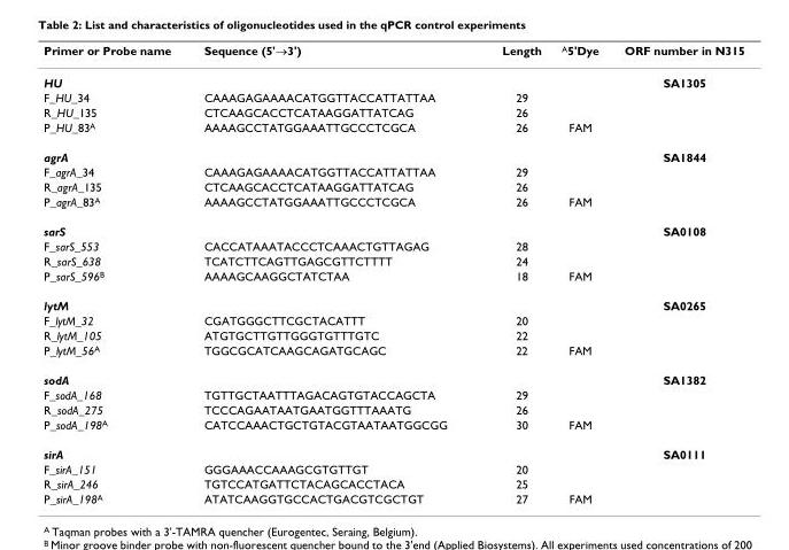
<table><thead><tr><td>Primer or Probe name</td><td>Sequence (5&#x27;→3&#x27;)</td><td>Length</td><td><sup>A</sup>5&#x27;Dye</td><td>ORF number in N315</td></tr></thead><tbody><tr><td>HU</td><td></td><td></td><td></td><td>SA1305</td></tr><tr><td>F_HU_34</td><td>CAAAGAGAAAACATGGTTACCATTATTAA</td><td>29</td><td></td><td></td></tr><tr><td>R_HU_135</td><td>CTCAAGCACCTCATAAGGATTATCAG</td><td>26</td><td></td><td></td></tr><tr><td>P_HU_83<sup>A</sup></td><td>AAAAGCCTATGGAAATTGCCCTCGCA</td><td>26</td><td>FAM</td><td></td></tr><tr><td>agrA</td><td></td><td></td><td></td><td>SA1844</td></tr><tr><td>F_agrA_34</td><td>CAAAGAGAAAACATGGTTACCATTATTAA</td><td>29</td><td></td><td></td></tr><tr><td>R_agrA_135</td><td>CTCAAGCACCTCATAAGGATTATCAG</td><td>26</td><td></td><td></td></tr><tr><td>P_agrA_83<sup>A</sup></td><td>AAAAGCCTATGGAAATTGCCCTCGCA</td><td>26</td><td>FAM</td><td></td></tr><tr><td>sarS</td><td></td><td></td><td></td><td>SA0108</td></tr><tr><td>F_sarS_553</td><td>CACCATAAATACCCTCAAACTGTTAGAG</td><td>28</td><td></td><td></td></tr><tr><td>R_sarS_638</td><td>TCATCTTCAGTTGAGCGTTCTTTT</td><td>24</td><td></td><td></td></tr><tr><td>P_sarS_596<sup>B</sup></td><td>AAAAGCAAGGCTATCTAA</td><td>18</td><td>FAM</td><td></td></tr><tr><td>lytM</td><td></td><td></td><td></td><td>SA0265</td></tr><tr><td>F_lytM_32</td><td>CGATGGGCTTCGCTACATTT</td><td>20</td><td></td><td></td></tr><tr><td>R_lytM_105</td><td>ATGTGCTTGTTGGGTGTTTGTC</td><td>22</td><td></td><td></td></tr><tr><td>P_lytM_56<sup>A</sup></td><td>TGGCGCATCAAGCAGATGCAGC</td><td>22</td><td>FAM</td><td></td></tr><tr><td>sodA</td><td></td><td></td><td></td><td>SA1382</td></tr><tr><td>F_sodA_168</td><td>TGTTGCTAATTTAGACAGTGTACCAGCTA</td><td>29</td><td></td><td></td></tr><tr><td>R_sodA_275</td><td>TCCCAGAATAATGAATGGTTTAAATG</td><td>26</td><td></td><td></td></tr><tr><td>P_sodA_198<sup>A</sup></td><td>CATCCAAACTGCTGTACGTAATAATGGCGG</td><td>30</td><td>FAM</td><td></td></tr><tr><td>sirA</td><td></td><td></td><td></td><td>SA0111</td></tr><tr><td>F_sirA_151</td><td>GGGAAACCAAAGCGTGTTGT</td><td>20</td><td></td><td></td></tr><tr><td>R_sirA_246</td><td>TGTCCATGATTCTACAGCACCTACA</td><td>25</td><td></td><td></td></tr><tr><td>P_sirA_198<sup>A</sup></td><td>ATATCAAGGTGCCACTGACGTCGCTGT</td><td>27</td><td>FAM</td><td></td></tr></tbody></table>